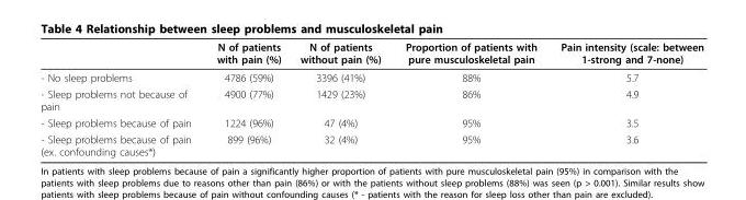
<table><thead><tr><td></td><td>N of patients with pain (%)</td><td>N of patients without pain (%)</td><td>Proportion of patients with pure musculoskeletal pain</td><td>Pain intensity (scale: between 1-strong and 7-none)</td></tr></thead><tbody><tr><td>- No sleep problems</td><td>4786 (59%)</td><td>3396 (41%)</td><td>88%</td><td>5.7</td></tr><tr><td>- Sleep problems not because of pain</td><td>4900 (77%)</td><td>1429 (23%)</td><td>86%</td><td>4.9</td></tr><tr><td>- Sleep problems because of pain</td><td>1224 (96%)</td><td>47 (4%)</td><td>95%</td><td>3.5</td></tr><tr><td>- Sleep problems because of pain (ex. confounding causes*)</td><td>899 (96%)</td><td>32 (4%)</td><td>95%</td><td>3.6</td></tr></tbody></table>